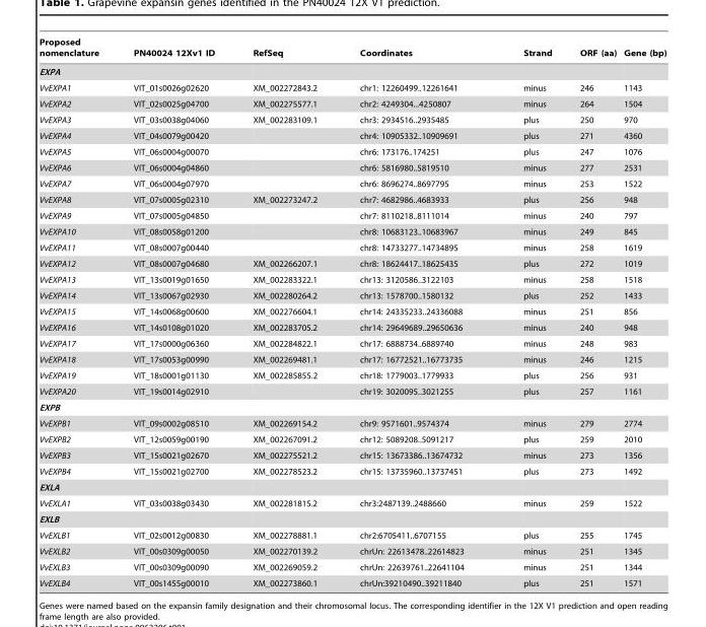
<table><thead><tr><td>Proposed nomenclature</td><td>PN40024 12Xv1 ID</td><td>RefSeq</td><td>Coordinates</td><td>Strand</td><td>ORF (aa)</td><td>Gene (bp)</td></tr></thead><tbody><tr><td colspan="7">EXPA</td></tr><tr><td>VvEXPA1</td><td>VIT_01s0026g02620</td><td>XM_002272843.2</td><td>chr1: 12260499..12261641</td><td>minus</td><td>246</td><td>1143</td></tr><tr><td>VvEXPA2</td><td>VIT_02s0025g04700</td><td>XM_002275577.1</td><td>chr2: 4249304...4250807</td><td>minus</td><td>264</td><td>1504</td></tr><tr><td>VvEXPA3</td><td>VIT_03s0038g04060</td><td>XM_002283109.1</td><td>chr3: 2934516..2935485</td><td>plus</td><td>250</td><td>970</td></tr><tr><td>VvEXPA4</td><td>VIT_04s0079g00420</td><td></td><td>chr4: 10905332..10909691</td><td>plus</td><td>271</td><td>4360</td></tr><tr><td>VvEXPA5</td><td>VIT_06s0004g00070</td><td></td><td>chr6: 173176..174251</td><td>plus</td><td>247</td><td>1076</td></tr><tr><td>VvEXPA6</td><td>VIT_06s0004g04860</td><td></td><td>chr6: 5816980..5819510</td><td>minus</td><td>277</td><td>2531</td></tr><tr><td>VvEXPA7</td><td>VIT_06s0004g07970</td><td></td><td>chr6: 8696274..8697795</td><td>minus</td><td>253</td><td>1522</td></tr><tr><td>VvEXPA8</td><td>VIT_07s0005g02310</td><td>XM_002273247.2</td><td>chr7: 4682986..4683933</td><td>plus</td><td>256</td><td>948</td></tr><tr><td>VvEXPA9</td><td>VIT_07s0005g04850</td><td></td><td>chr7: 8110218..8111014</td><td>minus</td><td>240</td><td>797</td></tr><tr><td>VvEXPA10</td><td>VIT_08s0058g01200</td><td></td><td>chr8: 10683123..10683967</td><td>minus</td><td>249</td><td>845</td></tr><tr><td>VvEXPA11</td><td>VIT_08s0007g00440</td><td></td><td>chr8: 14733277..14734895</td><td>minus</td><td>258</td><td>1619</td></tr><tr><td>VvEXPA12</td><td>VIT_08s0007g04680</td><td>XM_002266207.1</td><td>chr8: 18624417..18625435</td><td>plus</td><td>272</td><td>1019</td></tr><tr><td>VvEXPA13</td><td>VIT_13s0019g01650</td><td>XM_002283322.1</td><td>chr13: 3120586..3122103</td><td>minus</td><td>258</td><td>1518</td></tr><tr><td>VvEXPA14</td><td>VIT_13s0067g02930</td><td>XM_002280264.2</td><td>chr13: 1578700..1580132</td><td>plus</td><td>252</td><td>1433</td></tr><tr><td>VvEXPA15</td><td>VIT_14s0068g00600</td><td>XM_002276604.1</td><td>chr14: 24335233..24336088</td><td>minus</td><td>251</td><td>856</td></tr><tr><td>VvEXPA16</td><td>VIT_14s0108g01020</td><td>XM_002283705.2</td><td>chr14: 29649689..29650636</td><td>minus</td><td>240</td><td>948</td></tr><tr><td>VvEXPA17</td><td>VIT_17s0000g06360</td><td>XM_002284822.1</td><td>chr17: 6888734..6889740</td><td>minus</td><td>248</td><td>983</td></tr><tr><td>VvEXPA18</td><td>VIT_17s0053g00990</td><td>XM_002269481.1</td><td>chr17: 16772521..16773735</td><td>minus</td><td>246</td><td>1215</td></tr><tr><td>VvEXPA19</td><td>VIT_18s0001g01130</td><td>XM_002285855.2</td><td>chr18: 1779003..1779933</td><td>plus</td><td>256</td><td>931</td></tr><tr><td>VvEXPA20</td><td>VIT_19s0014g02910</td><td></td><td>chr19: 3020095..3021255</td><td>plus</td><td>257</td><td>1161</td></tr><tr><td colspan="7">EXPB</td></tr><tr><td>VvEXPB1</td><td>VIT_09s0002g08510</td><td>XM_002269154.2</td><td>chr9: 9571601..9574374</td><td>minus</td><td>279</td><td>2774</td></tr><tr><td>VvEXPB2</td><td>VIT_12s0059g00190</td><td>XM_002267091.2</td><td>chr12: 5089208..5091217</td><td>plus</td><td>259</td><td>2010</td></tr><tr><td>VvEXPB3</td><td>VIT_15s0021g02670</td><td>XM_002275521.2</td><td>chr15: 13673386..13674732</td><td>minus</td><td>273</td><td>1356</td></tr><tr><td>VvEXPB4</td><td>VIT_15s0021g02700</td><td>XM_002278523.2</td><td>chr15: 13735960..13737451</td><td>plus</td><td>273</td><td>1492</td></tr><tr><td colspan="7">EXLA</td></tr><tr><td>VvEXLA1</td><td>VIT_03s0038g03430</td><td>XM_002281815.2</td><td>chr3:2487139..2488660</td><td>minus</td><td>259</td><td>1522</td></tr><tr><td colspan="7">EXLB</td></tr><tr><td>VvEXLB1</td><td>VIT_02s0012g00830</td><td>XM_002278881.1</td><td>chr2:6705411..6707155</td><td>plus</td><td>255</td><td>1745</td></tr><tr><td>VvEXLB2</td><td>VIT_00s0309g00050</td><td>XM_002270139.2</td><td>chrUn: 22613478..22614823</td><td>minus</td><td>251</td><td>1345</td></tr><tr><td>VvEXLB3</td><td>VIT_00s0309g00090</td><td>XM_002269059.2</td><td>chrUn: 22639761..22641104</td><td>minus</td><td>251</td><td>1344</td></tr><tr><td>VvEXLB4</td><td>VIT_00s1455g00010</td><td>XM_002273860.1</td><td>chrUn:39210490..39211840</td><td>plus</td><td>251</td><td>1571</td></tr></tbody></table>